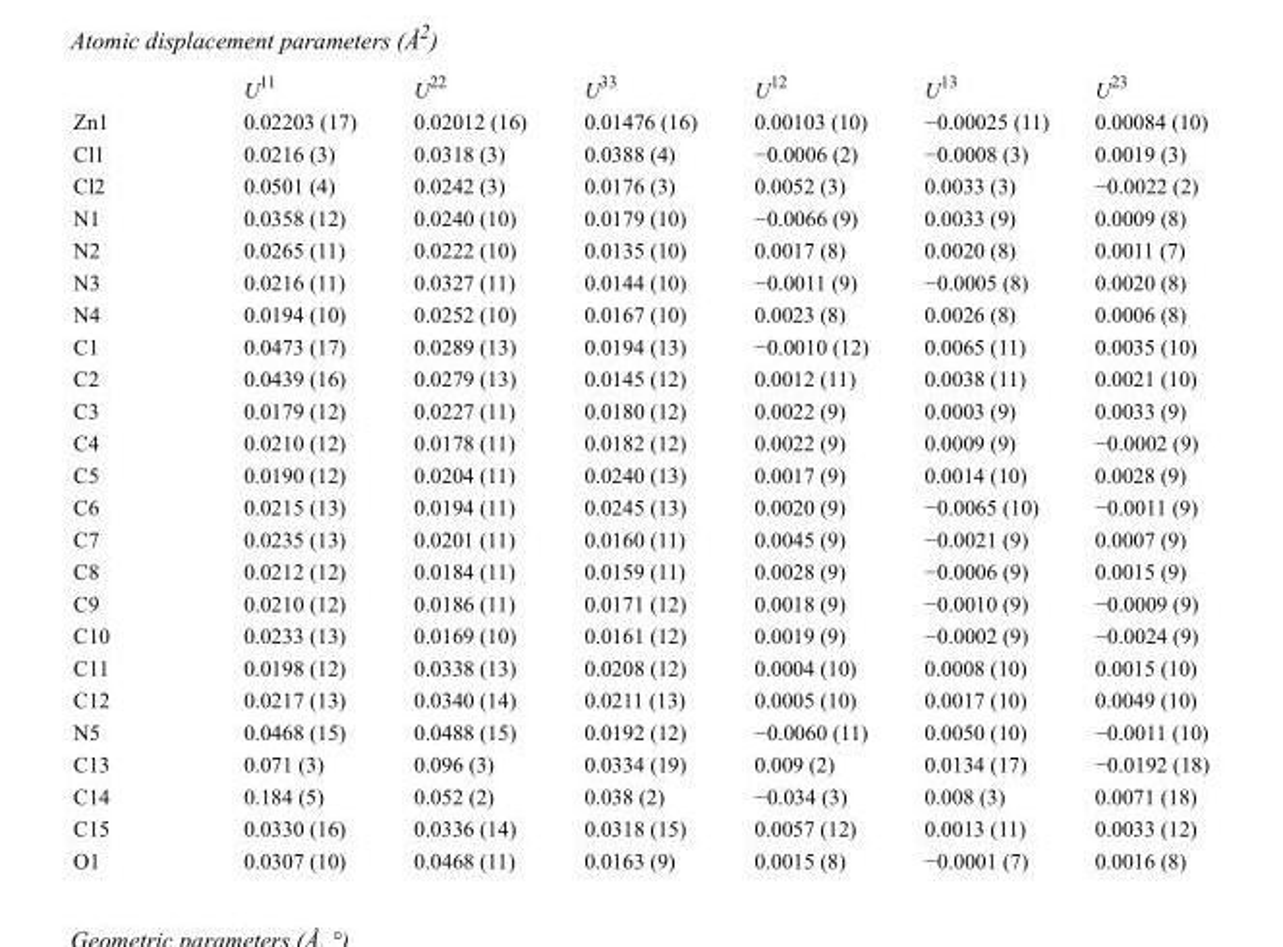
<table><thead><tr><td></td><td>U<sup>11</sup></td><td>U<sup>22</sup></td><td>U<sup>33</sup></td><td>U<sup>12</sup></td><td>U<sup>13</sup></td><td>U<sup>23</sup></td></tr></thead><tbody><tr><td>Zn1</td><td>0.02203 (17)</td><td>0.02012 (16)</td><td>0.01476 (16)</td><td>0.00103 (10)</td><td>−0.00025 (11)</td><td>0.00084 (10)</td></tr><tr><td>Cl1</td><td>0.0216 (3)</td><td>0.0318 (3)</td><td>0.0388 (4)</td><td>−0.0006 (2)</td><td>−0.0008 (3)</td><td>0.0019 (3)</td></tr><tr><td>Cl2</td><td>0.0501 (4)</td><td>0.0242 (3)</td><td>0.0176 (3)</td><td>0.0052 (3)</td><td>0.0033 (3)</td><td>−0.0022 (2)</td></tr><tr><td>N1</td><td>0.0358 (12)</td><td>0.0240 (10)</td><td>0.0179 (10)</td><td>−0.0066 (9)</td><td>0.0033 (9)</td><td>0.0009 (8)</td></tr><tr><td>N2</td><td>0.0265 (11)</td><td>0.0222 (10)</td><td>0.0135 (10)</td><td>0.0017 (8)</td><td>0.0020 (8)</td><td>0.0011 (7)</td></tr><tr><td>N3</td><td>0.0216 (11)</td><td>0.0327 (11)</td><td>0.0144 (10)</td><td>−0.0011 (9)</td><td>−0.0005 (8)</td><td>0.0020 (8)</td></tr><tr><td>N4</td><td>0.0194 (10)</td><td>0.0252 (10)</td><td>0.0167 (10)</td><td>0.0023 (8)</td><td>0.0026 (8)</td><td>0.0006 (8)</td></tr><tr><td>C1</td><td>0.0473 (17)</td><td>0.0289 (13)</td><td>0.0194 (13)</td><td>−0.0010 (12)</td><td>0.0065 (11)</td><td>0.0035 (10)</td></tr><tr><td>C2</td><td>0.0439 (16)</td><td>0.0279 (13)</td><td>0.0145 (12)</td><td>0.0012 (11)</td><td>0.0038 (11)</td><td>0.0021 (10)</td></tr><tr><td>C3</td><td>0.0179 (12)</td><td>0.0227 (11)</td><td>0.0180 (12)</td><td>0.0022 (9)</td><td>0.0003 (9)</td><td>0.0033 (9)</td></tr><tr><td>C4</td><td>0.0210 (12)</td><td>0.0178 (11)</td><td>0.0182 (12)</td><td>0.0022 (9)</td><td>0.0009 (9)</td><td>−0.0002 (9)</td></tr><tr><td>C5</td><td>0.0190 (12)</td><td>0.0204 (11)</td><td>0.0240 (13)</td><td>0.0017 (9)</td><td>0.0014 (10)</td><td>0.0028 (9)</td></tr><tr><td>C6</td><td>0.0215 (13)</td><td>0.0194 (11)</td><td>0.0245 (13)</td><td>0.0020 (9)</td><td>−0.0065 (10)</td><td>−0.0011 (9)</td></tr><tr><td>C7</td><td>0.0235 (13)</td><td>0.0201 (11)</td><td>0.0160 (11)</td><td>0.0045 (9)</td><td>−0.0021 (9)</td><td>0.0007 (9)</td></tr><tr><td>C8</td><td>0.0212 (12)</td><td>0.0184 (11)</td><td>0.0159 (11)</td><td>0.0028 (9)</td><td>−0.0006 (9)</td><td>0.0015 (9)</td></tr><tr><td>C9</td><td>0.0210 (12)</td><td>0.0186 (11)</td><td>0.0171 (12)</td><td>0.0018 (9)</td><td>−0.0010 (9)</td><td>−0.0009 (9)</td></tr><tr><td>C10</td><td>0.0233 (13)</td><td>0.0169 (10)</td><td>0.0161 (12)</td><td>0.0019 (9)</td><td>−0.0002 (9)</td><td>−0.0024 (9)</td></tr><tr><td>C11</td><td>0.0198 (12)</td><td>0.0338 (13)</td><td>0.0208 (12)</td><td>0.0004 (10)</td><td>0.0008 (10)</td><td>0.0015 (10)</td></tr><tr><td>C12</td><td>0.0217 (13)</td><td>0.0340 (14)</td><td>0.0211 (13)</td><td>0.0005 (10)</td><td>0.0017 (10)</td><td>0.0049 (10)</td></tr><tr><td>N5</td><td>0.0468 (15)</td><td>0.0488 (15)</td><td>0.0192 (12)</td><td>−0.0060 (11)</td><td>0.0050 (10)</td><td>−0.0011 (10)</td></tr><tr><td>C13</td><td>0.071 (3)</td><td>0.096 (3)</td><td>0.0334 (19)</td><td>0.009 (2)</td><td>0.0134 (17)</td><td>−0.0192 (18)</td></tr><tr><td>C14</td><td>0.184 (5)</td><td>0.052 (2)</td><td>0.038 (2)</td><td>−0.034 (3)</td><td>0.008 (3)</td><td>0.0071 (18)</td></tr><tr><td>C15</td><td>0.0330 (16)</td><td>0.0336 (14)</td><td>0.0318 (15)</td><td>0.0057 (12)</td><td>0.0013 (11)</td><td>0.0033 (12)</td></tr><tr><td>O1</td><td>0.0307 (10)</td><td>0.0468 (11)</td><td>0.0163 (9)</td><td>0.0015 (8)</td><td>−0.0001 (7)</td><td>0.0016 (8)</td></tr></tbody></table>